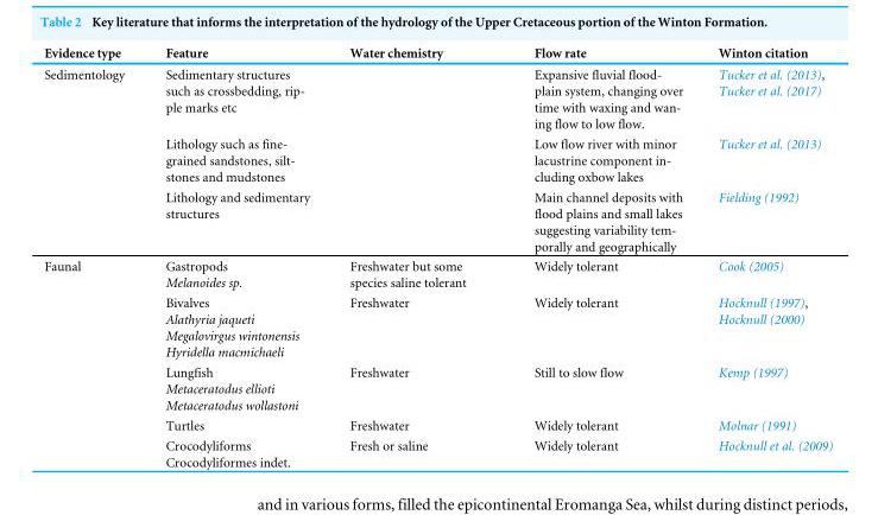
<table><thead><tr><td>Evidence type</td><td>Feature</td><td>Water chemistry</td><td>Flow rate</td><td>Winton citation</td></tr></thead><tbody><tr><td rowspan="3">Sedimentology</td><td>Sedimentary structures such as crossbedding, rip- ple marks etc</td><td></td><td>Expansive fluvial flood- plain system, changing over time with waxing and wan- ing flow to low flow.</td><td>Tucker et al. (2013), Tucker et al. (2017)</td></tr><tr><td>Lithology such as fine- grained sandstones, silt- stones and mudstones</td><td></td><td>Low flow river with minor lacustrine component in- cluding oxbow lakes</td><td>Tucker et al. (2013)</td></tr><tr><td>Lithology and sedimentary structures</td><td></td><td>Main channel deposits with flood plains and small lakes suggesting variability tem- porally and geographically</td><td>Fielding (1992)</td></tr><tr><td rowspan="5">Faunal</td><td>Gastropods Melanoides sp.</td><td>Freshwater but some species saline tolerant</td><td>Widely tolerant</td><td>Cook (2005)</td></tr><tr><td>Bivalves Alathyria jaqueti Megalovirgus wintonensis Hyridella macmichaeli</td><td>Freshwater</td><td>Widely tolerant</td><td>Hocknull (1997), Hocknull (2000)</td></tr><tr><td>Lungfish Metaceratodus ellioti Metaceratodus wollastoni</td><td>Freshwater</td><td>Still to slow flow</td><td>Kemp (1997)</td></tr><tr><td>Turtles</td><td>Freshwater</td><td>Widely tolerant</td><td>Molnar (1991)</td></tr><tr><td>Crocodyliforms Crocodyliformes indet.</td><td>Fresh or saline</td><td>Widely tolerant</td><td>Hocknull et al. (2009)</td></tr></tbody></table>